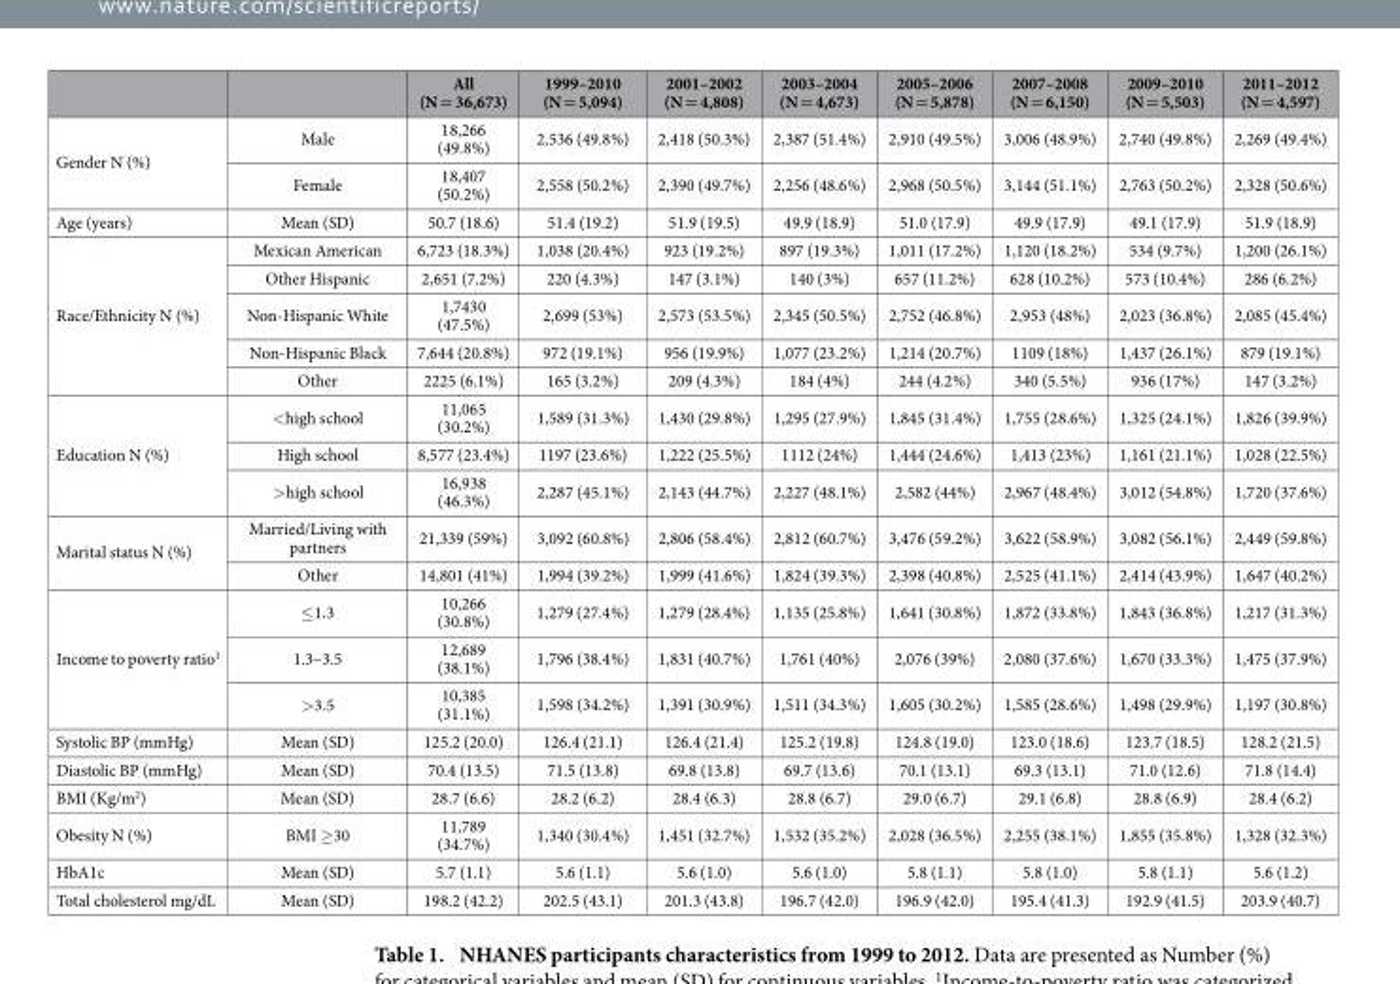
<table><thead><tr><td></td><td></td><td>All (N = 36,673)</td><td>1999–2010 (N = 5,094)</td><td>2001–2002 (N = 4,808)</td><td>2003–2004 (N = 4,673)</td><td>2005–2006 (N = 5,878)</td><td>2007–2008 (N = 6,150)</td><td>2009–2010 (N = 5,503)</td><td>2011–2012 (N = 4,597)</td></tr></thead><tbody><tr><td rowspan="2">Gender N (%)</td><td>Male</td><td>18,266 (49.8%)</td><td>2,536 (49.8%)</td><td>2,418 (50.3%)</td><td>2,387 (51.4%)</td><td>2,910 (49.5%)</td><td>3,006 (48.9%)</td><td>2,740 (49.8%)</td><td>2,269 (49.4%)</td></tr><tr><td>Female</td><td>18,407 (50.2%)</td><td>2,558 (50.2%)</td><td>2,390 (49.7%)</td><td>2,256 (48.6%)</td><td>2,968 (50.5%)</td><td>3,144 (51.1%)</td><td>2,763 (50.2%)</td><td>2,328 (50.6%)</td></tr><tr><td>Age (years)</td><td>Mean (SD)</td><td>50.7 (18.6)</td><td>51.4 (19.2)</td><td>51.9 (19.5)</td><td>49.9 (18.9)</td><td>51.0 (17.9)</td><td>49.9 (17.9)</td><td>49.1 (17.9)</td><td>51.9 (18.9)</td></tr><tr><td rowspan="5">Race/Ethnicity N (%)</td><td>Mexican American</td><td>6,723 (18.3%)</td><td>1,038 (20.4%)</td><td>923 (19.2%)</td><td>897 (19.3%)</td><td>1,011 (17.2%)</td><td>1,120 (18.2%)</td><td>534 (9.7%)</td><td>1,200 (26.1%)</td></tr><tr><td>Other Hispanic</td><td>2,651 (7.2%)</td><td>220 (4.3%)</td><td>147 (3.1%)</td><td>140 (3%)</td><td>657 (11.2%)</td><td>628 (10.2%)</td><td>573 (10.4%)</td><td>286 (6.2%)</td></tr><tr><td>Non-Hispanic White</td><td>1,7430 (47.5%)</td><td>2,699 (53%)</td><td>2,573 (53.5%)</td><td>2,345 (50.5%)</td><td>2,752 (46.8%)</td><td>2,953 (48%)</td><td>2,023 (36.8%)</td><td>2,085 (45.4%)</td></tr><tr><td>Non-Hispanic Black</td><td>7,644 (20.8%)</td><td>972 (19.1%)</td><td>956 (19.9%)</td><td>1,077 (23.2%)</td><td>1,214 (20.7%)</td><td>1109 (18%)</td><td>1,437 (26.1%)</td><td>879 (19.1%)</td></tr><tr><td>Other</td><td>2225 (6.1%)</td><td>165 (3.2%)</td><td>209 (4.3%)</td><td>184 (4%)</td><td>244 (4.2%)</td><td>340 (5.5%)</td><td>936 (17%)</td><td>147 (3.2%)</td></tr><tr><td rowspan="3">Education N (%)</td><td>&lt; high school</td><td>11,065 (30.2%)</td><td>1,589 (31.3%)</td><td>1,430 (29.8%)</td><td>1,295 (27.9%)</td><td>1,845 (31.4%)</td><td>1,755 (28.6%)</td><td>1,325 (24.1%)</td><td>1,826 (39.9%)</td></tr><tr><td>High school</td><td>8,577 (23.4%)</td><td>1197 (23.6%)</td><td>1,222 (25.5%)</td><td>1112 (24%)</td><td>1,444 (24.6%)</td><td>1,413 (23%)</td><td>1,161 (21.1%)</td><td>1,028 (22.5%)</td></tr><tr><td>&gt; high school</td><td>16,938 (46.3%)</td><td>2,287 (45.1%)</td><td>2,143 (44.7%)</td><td>2,227 (48.1%)</td><td>2,582 (44%)</td><td>2,967 (48.4%)</td><td>3,012 (54.8%)</td><td>1,720 (37.6%)</td></tr><tr><td rowspan="2">Marital status N (%)</td><td>Married/Living with partners</td><td>21,339 (59%)</td><td>3,092 (60.8%)</td><td>2,806 (58.4%)</td><td>2,812 (60.7%)</td><td>3,476 (59.2%)</td><td>3,622 (58.9%)</td><td>3,082 (56.1%)</td><td>2,449 (59.8%)</td></tr><tr><td>Other</td><td>14,801 (41%)</td><td>1,994 (39.2%)</td><td>1,999 (41.6%)</td><td>1,824 (39.3%)</td><td>2,398 (40.8%)</td><td>2,525 (41.1%)</td><td>2,414 (43.9%)</td><td>1,647 (40.2%)</td></tr><tr><td rowspan="3">Income to poverty ratio<sup>1</sup></td><td>≤ 1.3</td><td>10,266 (30.8%)</td><td>1,279 (27.4%)</td><td>1,279 (28.4%)</td><td>1,135 (25.8%)</td><td>1,641 (30.8%)</td><td>1,872 (33.8%)</td><td>1,843 (36.8%)</td><td>1,217 (31.3%)</td></tr><tr><td>1.3–3.5</td><td>12,689 (38.1%)</td><td>1,796 (38.4%)</td><td>1,831 (40.7%)</td><td>1,761 (40%)</td><td>2,076 (39%)</td><td>2,080 (37.6%)</td><td>1,670 (33.3%)</td><td>1,475 (37.9%)</td></tr><tr><td>&gt; 3.5</td><td>10,385 (31.1%)</td><td>1,598 (34.2%)</td><td>1,391 (30.9%)</td><td>1,511 (34.3%)</td><td>1,605 (30.2%)</td><td>1,585 (28.6%)</td><td>1,498 (29.9%)</td><td>1,197 (30.8%)</td></tr><tr><td>Systolic BP (mmHg)</td><td>Mean (SD)</td><td>125.2 (20.0)</td><td>126.4 (21.1)</td><td>126.4 (21.4)</td><td>125.2 (19.8)</td><td>124.8 (19.0)</td><td>123.0 (18.6)</td><td>123.7 (18.5)</td><td>128.2 (21.5)</td></tr><tr><td>Diastolic BP (mmHg)</td><td>Mean (SD)</td><td>70.4 (13.5)</td><td>71.5 (13.8)</td><td>69.8 (13.8)</td><td>69.7 (13.6)</td><td>70.1 (13.1)</td><td>69.3 (13.1)</td><td>71.0 (12.6)</td><td>71.8 (14.4)</td></tr><tr><td>BMI (Kg/m<sup>2</sup>)</td><td>Mean (SD)</td><td>28.7 (6.6)</td><td>28.2 (6.2)</td><td>28.4 (6.3)</td><td>28.8 (6.7)</td><td>29.0 (6.7)</td><td>29.1 (6.8)</td><td>28.8 (6.9)</td><td>28.4 (6.2)</td></tr><tr><td>Obesity N (%)</td><td>BMI ≥ 30</td><td>11,789 (34.7%)</td><td>1,340 (30.4%)</td><td>1,451 (32.7%)</td><td>1,532 (35.2%)</td><td>2,028 (36.5%)</td><td>2,255 (38.1%)</td><td>1,855 (35.8%)</td><td>1,328 (32.3%)</td></tr><tr><td>HbA1c</td><td>Mean (SD)</td><td>5.7 (1.1)</td><td>5.6 (1.1)</td><td>5.6 (1.0)</td><td>5.6 (1.0)</td><td>5.8 (1.1)</td><td>5.8 (1.0)</td><td>5.8 (1.1)</td><td>5.6 (1.2)</td></tr><tr><td>Total cholesterol mg/dL</td><td>Mean (SD)</td><td>198.2 (42.2)</td><td>202.5 (43.1)</td><td>201.3 (43.8)</td><td>196.7 (42.0)</td><td>196.9 (42.0)</td><td>195.4 (41.3)</td><td>192.9 (41.5)</td><td>203.9 (40.7)</td></tr></tbody></table>